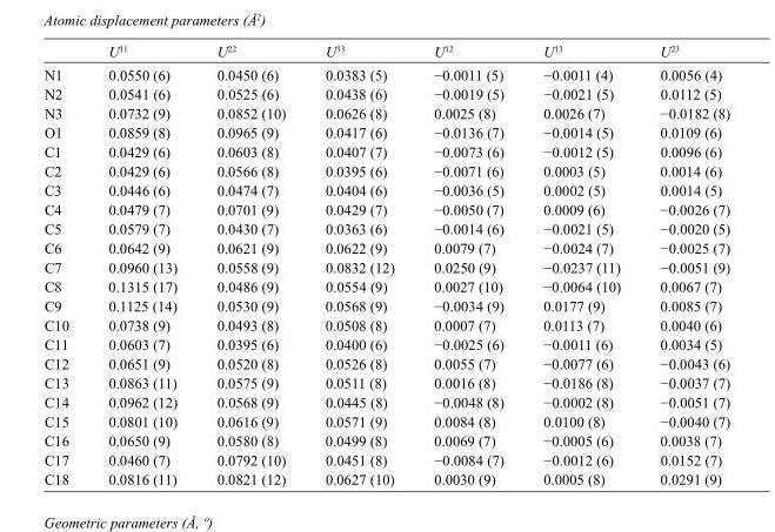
<table><thead><tr><td></td><td>U<sup>11</sup></td><td>U<sup>22</sup></td><td>U<sup>33</sup></td><td>U<sup>12</sup></td><td>U<sup>13</sup></td><td>U<sup>23</sup></td></tr></thead><tbody><tr><td>N1</td><td>0.0550 (6)</td><td>0.0450 (6)</td><td>0.0383 (5)</td><td>−0.0011 (5)</td><td>−0.0011 (4)</td><td>0.0056 (4)</td></tr><tr><td>N2</td><td>0.0541 (6)</td><td>0.0525 (6)</td><td>0.0438 (6)</td><td>−0.0019 (5)</td><td>−0.0021 (5)</td><td>0.0112 (5)</td></tr><tr><td>N3</td><td>0.0732 (9)</td><td>0.0852 (10)</td><td>0.0626 (8)</td><td>0.0025 (8)</td><td>0.0026 (7)</td><td>−0.0182 (8)</td></tr><tr><td>O1</td><td>0.0859 (8)</td><td>0.0965 (9)</td><td>0.0417 (6)</td><td>−0.0136 (7)</td><td>−0.0014 (5)</td><td>0.0109 (6)</td></tr><tr><td>C1</td><td>0.0429 (6)</td><td>0.0603 (8)</td><td>0.0407 (7)</td><td>−0.0073 (6)</td><td>−0.0012 (5)</td><td>0.0096 (6)</td></tr><tr><td>C2</td><td>0.0429 (6)</td><td>0.0566 (8)</td><td>0.0395 (6)</td><td>−0.0071 (6)</td><td>0.0003 (5)</td><td>0.0014 (6)</td></tr><tr><td>C3</td><td>0.0446 (6)</td><td>0.0474 (7)</td><td>0.0404 (6)</td><td>−0.0036 (5)</td><td>0.0002 (5)</td><td>0.0014 (5)</td></tr><tr><td>C4</td><td>0.0479 (7)</td><td>0.0701 (9)</td><td>0.0429 (7)</td><td>−0.0050 (7)</td><td>0.0009 (6)</td><td>−0.0026 (7)</td></tr><tr><td>C5</td><td>0.0579 (7)</td><td>0.0430 (7)</td><td>0.0363 (6)</td><td>−0.0014 (6)</td><td>−0.0021 (5)</td><td>−0.0020 (5)</td></tr><tr><td>C6</td><td>0.0642 (9)</td><td>0.0621 (9)</td><td>0.0622 (9)</td><td>0.0079 (7)</td><td>−0.0024 (7)</td><td>−0.0025 (7)</td></tr><tr><td>C7</td><td>0.0960 (13)</td><td>0.0558 (9)</td><td>0.0832 (12)</td><td>0.0250 (9)</td><td>−0.0237 (11)</td><td>−0.0051 (9)</td></tr><tr><td>C8</td><td>0.1315 (17)</td><td>0.0486 (9)</td><td>0.0554 (9)</td><td>0.0027 (10)</td><td>−0.0064 (10)</td><td>0.0067 (7)</td></tr><tr><td>C9</td><td>0.1125 (14)</td><td>0.0530 (9)</td><td>0.0568 (9)</td><td>−0.0034 (9)</td><td>0.0177 (9)</td><td>0.0085 (7)</td></tr><tr><td>C10</td><td>0.0738 (9)</td><td>0.0493 (8)</td><td>0.0508 (8)</td><td>0.0007 (7)</td><td>0.0113 (7)</td><td>0.0040 (6)</td></tr><tr><td>C11</td><td>0.0603 (7)</td><td>0.0395 (6)</td><td>0.0400 (6)</td><td>−0.0025 (6)</td><td>−0.0011 (6)</td><td>0.0034 (5)</td></tr><tr><td>C12</td><td>0.0651 (9)</td><td>0.0520 (8)</td><td>0.0526 (8)</td><td>0.0055 (7)</td><td>−0.0077 (6)</td><td>−0.0043 (6)</td></tr><tr><td>C13</td><td>0.0863 (11)</td><td>0.0575 (9)</td><td>0.0511 (8)</td><td>0.0016 (8)</td><td>−0.0186 (8)</td><td>−0.0037 (7)</td></tr><tr><td>C14</td><td>0.0962 (12)</td><td>0.0568 (9)</td><td>0.0445 (8)</td><td>−0.0048 (8)</td><td>−0.0002 (8)</td><td>−0.0051 (7)</td></tr><tr><td>C15</td><td>0.0801 (10)</td><td>0.0616 (9)</td><td>0.0571 (9)</td><td>0.0084 (8)</td><td>0.0100 (8)</td><td>−0.0040 (7)</td></tr><tr><td>C16</td><td>0.0650 (9)</td><td>0.0580 (8)</td><td>0.0499 (8)</td><td>0.0069 (7)</td><td>−0.0005 (6)</td><td>0.0038 (7)</td></tr><tr><td>C17</td><td>0.0460 (7)</td><td>0.0792 (10)</td><td>0.0451 (8)</td><td>−0.0084 (7)</td><td>−0.0012 (6)</td><td>0.0152 (7)</td></tr><tr><td>C18</td><td>0.0816 (11)</td><td>0.0821 (12)</td><td>0.0627 (10)</td><td>0.0030 (9)</td><td>0.0005 (8)</td><td>0.0291 (9)</td></tr></tbody></table>